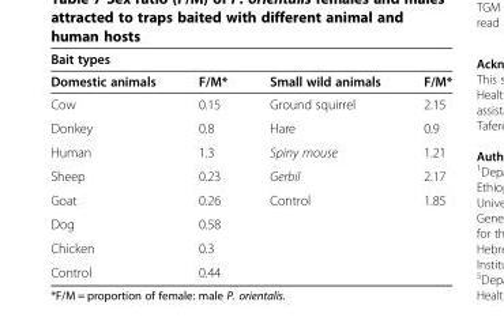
<table><thead><tr><td colspan="4">Bait types</td></tr><tr><td>Domestic animals</td><td>F/M*</td><td>Small wild animals</td><td>F/M*</td></tr></thead><tbody><tr><td>Cow</td><td>0.15</td><td>Ground squirrel</td><td>2.15</td></tr><tr><td>Donkey</td><td>0.8</td><td>Hare</td><td>0.9</td></tr><tr><td>Human</td><td>1.3</td><td>Spiny mouse</td><td>1.21</td></tr><tr><td>Sheep</td><td>0.23</td><td>Gerbil</td><td>2.17</td></tr><tr><td>Goat</td><td>0.26</td><td>Control</td><td>1.85</td></tr><tr><td>Dog</td><td>0.58</td><td></td><td></td></tr><tr><td>Chicken</td><td>0.3</td><td></td><td></td></tr><tr><td>Control</td><td>0.44</td><td></td><td></td></tr></tbody></table>